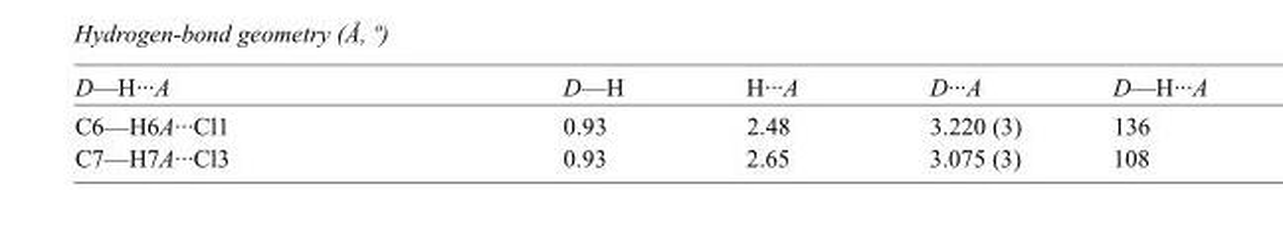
<table><tbody><tr><td>D—H···A</td><td>D—H</td><td>H···A</td><td>D···A</td><td>D—H···A</td></tr><tr><td>C6—H6A···Cl1</td><td>0.93</td><td>2.48</td><td>3.220 (3)</td><td>136</td></tr><tr><td>C7—H7A···Cl3</td><td>0.93</td><td>2.65</td><td>3.075 (3)</td><td>108</td></tr></tbody></table>